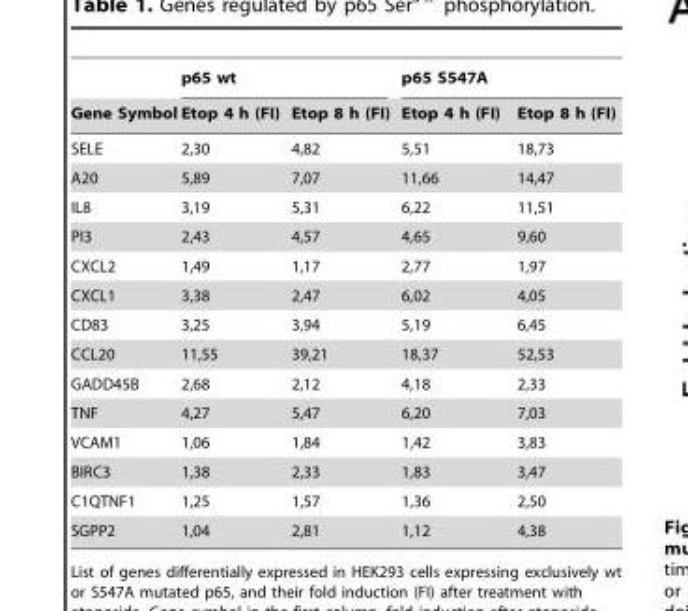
<table><thead><tr><td rowspan="2">Gene Symbol</td><td colspan="2">p65 wt</td><td colspan="2">p65 S547A</td></tr><tr><td>Etop 4 h (FI)</td><td>Etop 8 h (FI)</td><td>Etop 4 h (FI)</td><td>Etop 8 h (FI)</td></tr></thead><tbody><tr><td>SELE</td><td>2,30</td><td>4,82</td><td>5,51</td><td>18,73</td></tr><tr><td>A20</td><td>5,89</td><td>7,07</td><td>11,66</td><td>14,47</td></tr><tr><td>IL8</td><td>3,19</td><td>5,31</td><td>6,22</td><td>11,51</td></tr><tr><td>PI3</td><td>2,43</td><td>4,57</td><td>4,65</td><td>9,60</td></tr><tr><td>CXCL2</td><td>1,49</td><td>1,17</td><td>2,77</td><td>1,97</td></tr><tr><td>CXCL1</td><td>3,38</td><td>2,47</td><td>6,02</td><td>4,05</td></tr><tr><td>CD83</td><td>3,25</td><td>3,94</td><td>5,19</td><td>6,45</td></tr><tr><td>CCL20</td><td>11,55</td><td>39,21</td><td>18,37</td><td>52,53</td></tr><tr><td>GADD45B</td><td>2,68</td><td>2,12</td><td>4,18</td><td>2,33</td></tr><tr><td>TNF</td><td>4,27</td><td>5,47</td><td>6,20</td><td>7,03</td></tr><tr><td>VCAM1</td><td>1,06</td><td>1,84</td><td>1,42</td><td>3,83</td></tr><tr><td>BIRC3</td><td>1,38</td><td>2,33</td><td>1,83</td><td>3,47</td></tr><tr><td>C1QTNF1</td><td>1,25</td><td>1,57</td><td>1,36</td><td>2,50</td></tr><tr><td>SGPP2</td><td>1,04</td><td>2,81</td><td>1,12</td><td>4,38</td></tr></tbody></table>